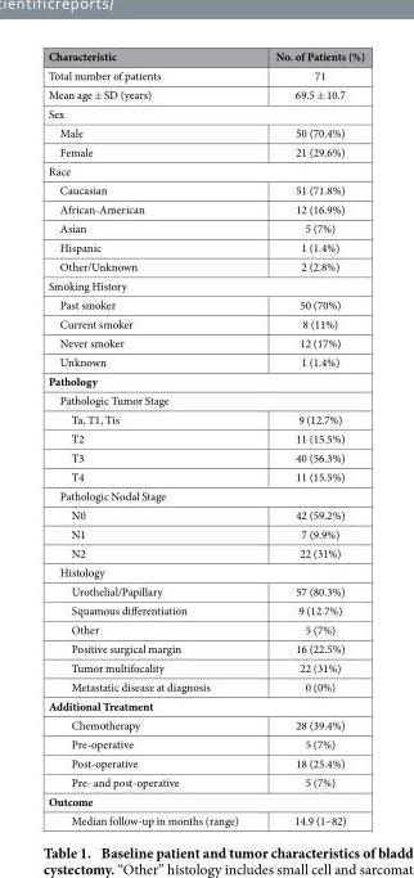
<table><thead><tr><td>Characteristic</td><td>No. of Patients (%)</td></tr></thead><tbody><tr><td>Total number of patients</td><td>71</td></tr><tr><td>Mean age ± SD (years)</td><td>69.5 ± 10.7</td></tr><tr><td colspan="2">Sex</td></tr><tr><td>Male</td><td>50 (70.4%)</td></tr><tr><td>Female</td><td>21 (29.6%)</td></tr><tr><td colspan="2">Race</td></tr><tr><td>Caucasian</td><td>51 (71.8%)</td></tr><tr><td>African-American</td><td>12 (16.9%)</td></tr><tr><td>Asian</td><td>5 (7%)</td></tr><tr><td>Hispanic</td><td>1 (1.4%)</td></tr><tr><td>Other/Unknown</td><td>2 (2.8%)</td></tr><tr><td colspan="2">Smoking History</td></tr><tr><td>Past smoker</td><td>50 (70%)</td></tr><tr><td>Current smoker</td><td>8 (11%)</td></tr><tr><td>Never smoker</td><td>12 (17%)</td></tr><tr><td>Unknown</td><td>1 (1.4%)</td></tr><tr><td colspan="2">Pathology</td></tr><tr><td colspan="2">Pathologic Tumor Stage</td></tr><tr><td>Ta, T1, Tis</td><td>9 (12.7%)</td></tr><tr><td>T2</td><td>11 (15.5%)</td></tr><tr><td>T3</td><td>40 (56.3%)</td></tr><tr><td>T4</td><td>11 (15.5%)</td></tr><tr><td colspan="2">Pathologic Nodal Stage</td></tr><tr><td>N0</td><td>42 (59.2%)</td></tr><tr><td>N1</td><td>7 (9.9%)</td></tr><tr><td>N2</td><td>22 (31%)</td></tr><tr><td colspan="2">Histology</td></tr><tr><td>Urothelial/Papillary</td><td>57 (80.3%)</td></tr><tr><td>Squamous differentiation</td><td>9 (12.7%)</td></tr><tr><td>Other</td><td>5 (7%)</td></tr><tr><td>Positive surgical margin</td><td>16 (22.5%)</td></tr><tr><td>Tumor multifocality</td><td>22 (31%)</td></tr><tr><td>Metastatic disease at diagnosis</td><td>0 (0%)</td></tr><tr><td colspan="2">Additional Treatment</td></tr><tr><td>Chemotherapy</td><td>28 (39.4%)</td></tr><tr><td>Pre-operative</td><td>5 (7%)</td></tr><tr><td>Post-operative</td><td>18 (25.4%)</td></tr><tr><td>Pre- and post-operative</td><td>5 (7%)</td></tr><tr><td colspan="2">Outcome</td></tr><tr><td>Median follow-up in months (range)</td><td>14.9 (1–82)</td></tr></tbody></table>